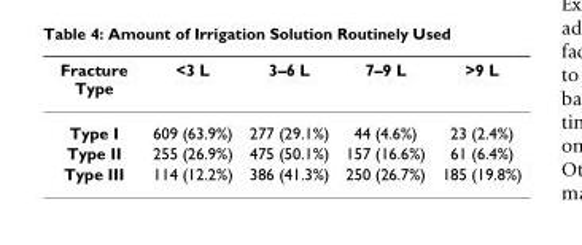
<table><thead><tr><td>Fracture Type</td><td>&lt;3 L</td><td>3–6 L</td><td>7–9 L</td><td>&gt;9 L</td></tr></thead><tbody><tr><td>Type I</td><td>609 (63.9%)</td><td>277 (29.1%)</td><td>44 (4.6%)</td><td>23 (2.4%)</td></tr><tr><td>Type II</td><td>255 (26.9%)</td><td>475 (50.1%)</td><td>157 (16.6%)</td><td>61 (6.4%)</td></tr><tr><td>Type III</td><td>114 (12.2%)</td><td>386 (41.3%)</td><td>250 (26.7%)</td><td>185 (19.8%)</td></tr></tbody></table>